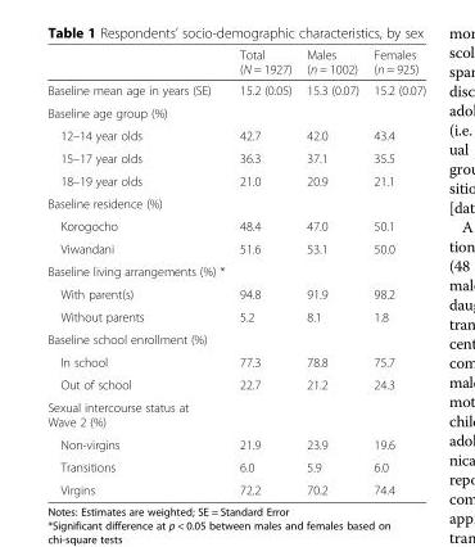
<table><thead><tr><td></td><td>Total (N = 1927)</td><td>Males (n = 1002)</td><td>Females (n = 925)</td></tr></thead><tbody><tr><td>Baseline mean age in years (SE)</td><td>15.2 (0.05)</td><td>15.3 (0.07)</td><td>15.2 (0.07)</td></tr><tr><td colspan="4">Baseline age group (%)</td></tr><tr><td>12–14 year olds</td><td>42.7</td><td>42.0</td><td>43.4</td></tr><tr><td>15–17 year olds</td><td>36.3</td><td>37.1</td><td>35.5</td></tr><tr><td>18–19 year olds</td><td>21.0</td><td>20.9</td><td>21.1</td></tr><tr><td colspan="4">Baseline residence (%)</td></tr><tr><td>Korogocho</td><td>48.4</td><td>47.0</td><td>50.1</td></tr><tr><td>Viwandani</td><td>51.6</td><td>53.1</td><td>50.0</td></tr><tr><td colspan="4">Baseline living arrangements (%) *</td></tr><tr><td>With parent(s)</td><td>94.8</td><td>91.9</td><td>98.2</td></tr><tr><td>Without parents</td><td>5.2</td><td>8.1</td><td>1.8</td></tr><tr><td colspan="4">Baseline school enrollment (%)</td></tr><tr><td>In school</td><td>77.3</td><td>78.8</td><td>75.7</td></tr><tr><td>Out of school</td><td>22.7</td><td>21.2</td><td>24.3</td></tr><tr><td colspan="4">Sexual intercourse status at Wave 2 (%)</td></tr><tr><td>Non-virgins</td><td>21.9</td><td>23.9</td><td>19.6</td></tr><tr><td>Transitions</td><td>6.0</td><td>5.9</td><td>6.0</td></tr><tr><td>Virgins</td><td>72.2</td><td>70.2</td><td>74.4</td></tr></tbody></table>